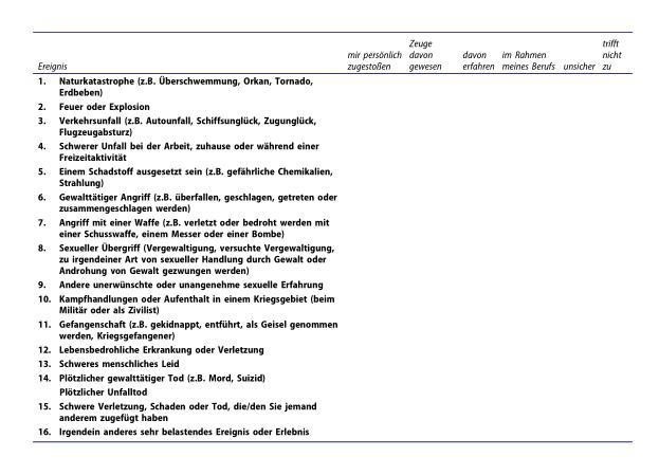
<table><thead><tr><td>Ereignis</td><td>mir persönlich zugestoßen</td><td>Zeuge davon gewesen</td><td>davon erfahren</td><td>im Rahmen meines Berufs</td><td>unsicher</td><td>trifft nicht zu</td></tr></thead><tbody><tr><td colspan="7">1. Naturkatastrophe (z.B. Überschwemmung, Orkan, Tornado, Erdbeben)</td></tr><tr><td colspan="7">2. Feuer oder Explosion</td></tr><tr><td colspan="7">3. Verkehrsunfall (z.B. Autounfall, Schiffsunglück, Zugunglück, Flugzeugabsturz)</td></tr><tr><td colspan="7">4. Schwerer Unfall bei der Arbeit, zuhause oder während einer Freizeitaktivität</td></tr><tr><td colspan="7">5. Einem Schadstoff ausgesetzt sein (z.B. gefährliche Chemikalien, Strahlung)</td></tr><tr><td colspan="7">6. Gewalttätiger Angriff (z.B. überfallen, geschlagen, getreten oder zusammengeschlagen werden)</td></tr><tr><td colspan="7">7. Angriff mit einer Waffe (z.B. verletzt oder bedroht werden mit einer Schusswaffe, einem Messer oder einer Bombe)</td></tr><tr><td colspan="7">8. Sexueller Übergriff (Vergewaltigung, versuchte Vergewaltigung, zu irgendeiner Art von sexueller Handlung durch Gewalt oder Androhung von Gewalt gezwungen werden)</td></tr><tr><td colspan="7">9. Andere unerwünschte oder unangenehme sexuelle Erfahrung</td></tr><tr><td colspan="7">10. Kampfhandlungen oder Aufenthalt in einem Kriegsgebiet (beim Militär oder als Zivilist)</td></tr><tr><td colspan="7">11. Gefangenschaft (z.B. gekidnappt, entführt, als Geisel genommen werden, Kriegsgefangener)</td></tr><tr><td colspan="7">12. Lebensbedrohliche Erkrankung oder Verletzung</td></tr><tr><td colspan="7">13. Schweres menschliches Leid</td></tr><tr><td colspan="7">14. Plötzlicher gewalttätiger Tod (z.B. Mord, Suizid)</td></tr><tr><td colspan="7">Plötzlicher Unfalltod</td></tr><tr><td colspan="7">15. Schwere Verletzung, Schaden oder Tod, die/den Sie jemand anderem zugefügt haben</td></tr><tr><td>16. Irgendein anderes sehr belastendes Ereignis oder Erlebnis</td><td></td><td></td><td></td><td></td><td></td><td></td></tr></tbody></table>